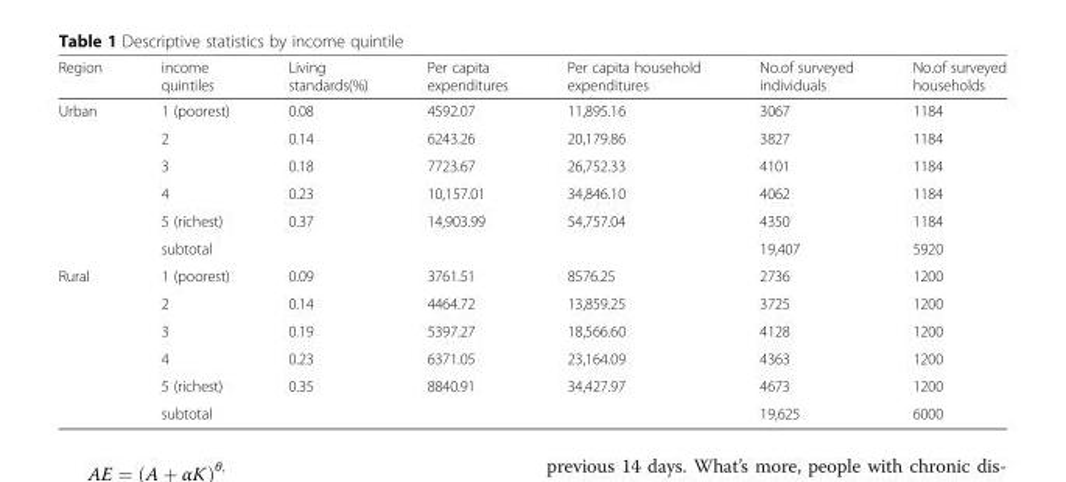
<table><thead><tr><td>Region</td><td>income quintiles</td><td>Living standards(%)</td><td>Per capita expenditures</td><td>Per capita household expenditures</td><td>No.of surveyed individuals</td><td>No.of surveyed households</td></tr></thead><tbody><tr><td rowspan="6">Urban</td><td>1 (poorest)</td><td>0.08</td><td>4592.07</td><td>11,895.16</td><td>3067</td><td>1184</td></tr><tr><td>2</td><td>0.14</td><td>6243.26</td><td>20,179.86</td><td>3827</td><td>1184</td></tr><tr><td>3</td><td>0.18</td><td>7723.67</td><td>26,752.33</td><td>4101</td><td>1184</td></tr><tr><td>4</td><td>0.23</td><td>10,157.01</td><td>34,846.10</td><td>4062</td><td>1184</td></tr><tr><td>5 (richest)</td><td>0.37</td><td>14,903.99</td><td>54,757.04</td><td>4350</td><td>1184</td></tr><tr><td>subtotal</td><td></td><td></td><td></td><td>19,407</td><td>5920</td></tr><tr><td rowspan="6">Rural</td><td>1 (poorest)</td><td>0.09</td><td>3761.51</td><td>8576.25</td><td>2736</td><td>1200</td></tr><tr><td>2</td><td>0.14</td><td>4464.72</td><td>13,859.25</td><td>3725</td><td>1200</td></tr><tr><td>3</td><td>0.19</td><td>5397.27</td><td>18,566.60</td><td>4128</td><td>1200</td></tr><tr><td>4</td><td>0.23</td><td>6371.05</td><td>23,164.09</td><td>4363</td><td>1200</td></tr><tr><td>5 (richest)</td><td>0.35</td><td>8840.91</td><td>34,427.97</td><td>4673</td><td>1200</td></tr><tr><td>subtotal</td><td></td><td></td><td></td><td>19,625</td><td>6000</td></tr></tbody></table>